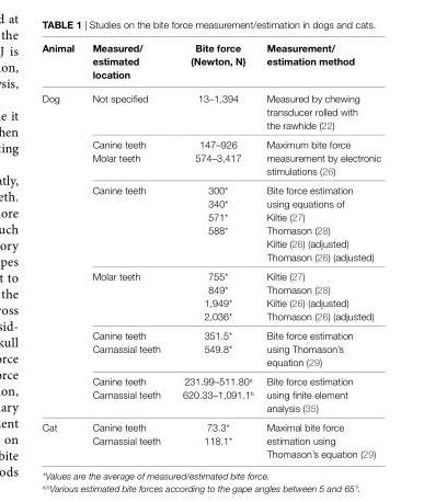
<table><thead><tr><td>animal</td><td>Measured/ estimated location</td><td>Bite force (newton, n)</td><td>Measurement/ estimation method</td></tr></thead><tbody><tr><td rowspan="6">Dog</td><td>Not specified</td><td>13–1,394</td><td>Measured by chewing transducer rolled with the rawhide (22)</td></tr><tr><td>Canine teeth Molar teeth</td><td>147–926 574–3,417</td><td>Maximum bite force measurement by electronic stimulations (26)</td></tr><tr><td>Canine teeth</td><td>300* 340* 571* 588*</td><td>Bite force estimation using equations of Kiltie (27) Thomason (28) Kiltie (26) (adjusted) Thomason (26) (adjusted)</td></tr><tr><td>Molar teeth</td><td>755* 849* 1,949* 2,036*</td><td>Kiltie (27) Thomason (28) Kiltie (26) (adjusted) Thomason (26) (adjusted)</td></tr><tr><td>Canine teeth Carnassial teeth</td><td>351.5* 549.8*</td><td>Bite force estimation using Thomason’s equation (29)</td></tr><tr><td>Canine teeth Carnassial teeth</td><td>231.99–511.80<sup>a</sup> 620.33–1,091.1<sup>b</sup></td><td>Bite force estimation using finite element analysis (35)</td></tr><tr><td>Cat</td><td>Canine teeth Carnassial teeth</td><td>73.3* 118.1*</td><td>Maximal bite force estimation using Thomason’s equation (29)</td></tr></tbody></table>